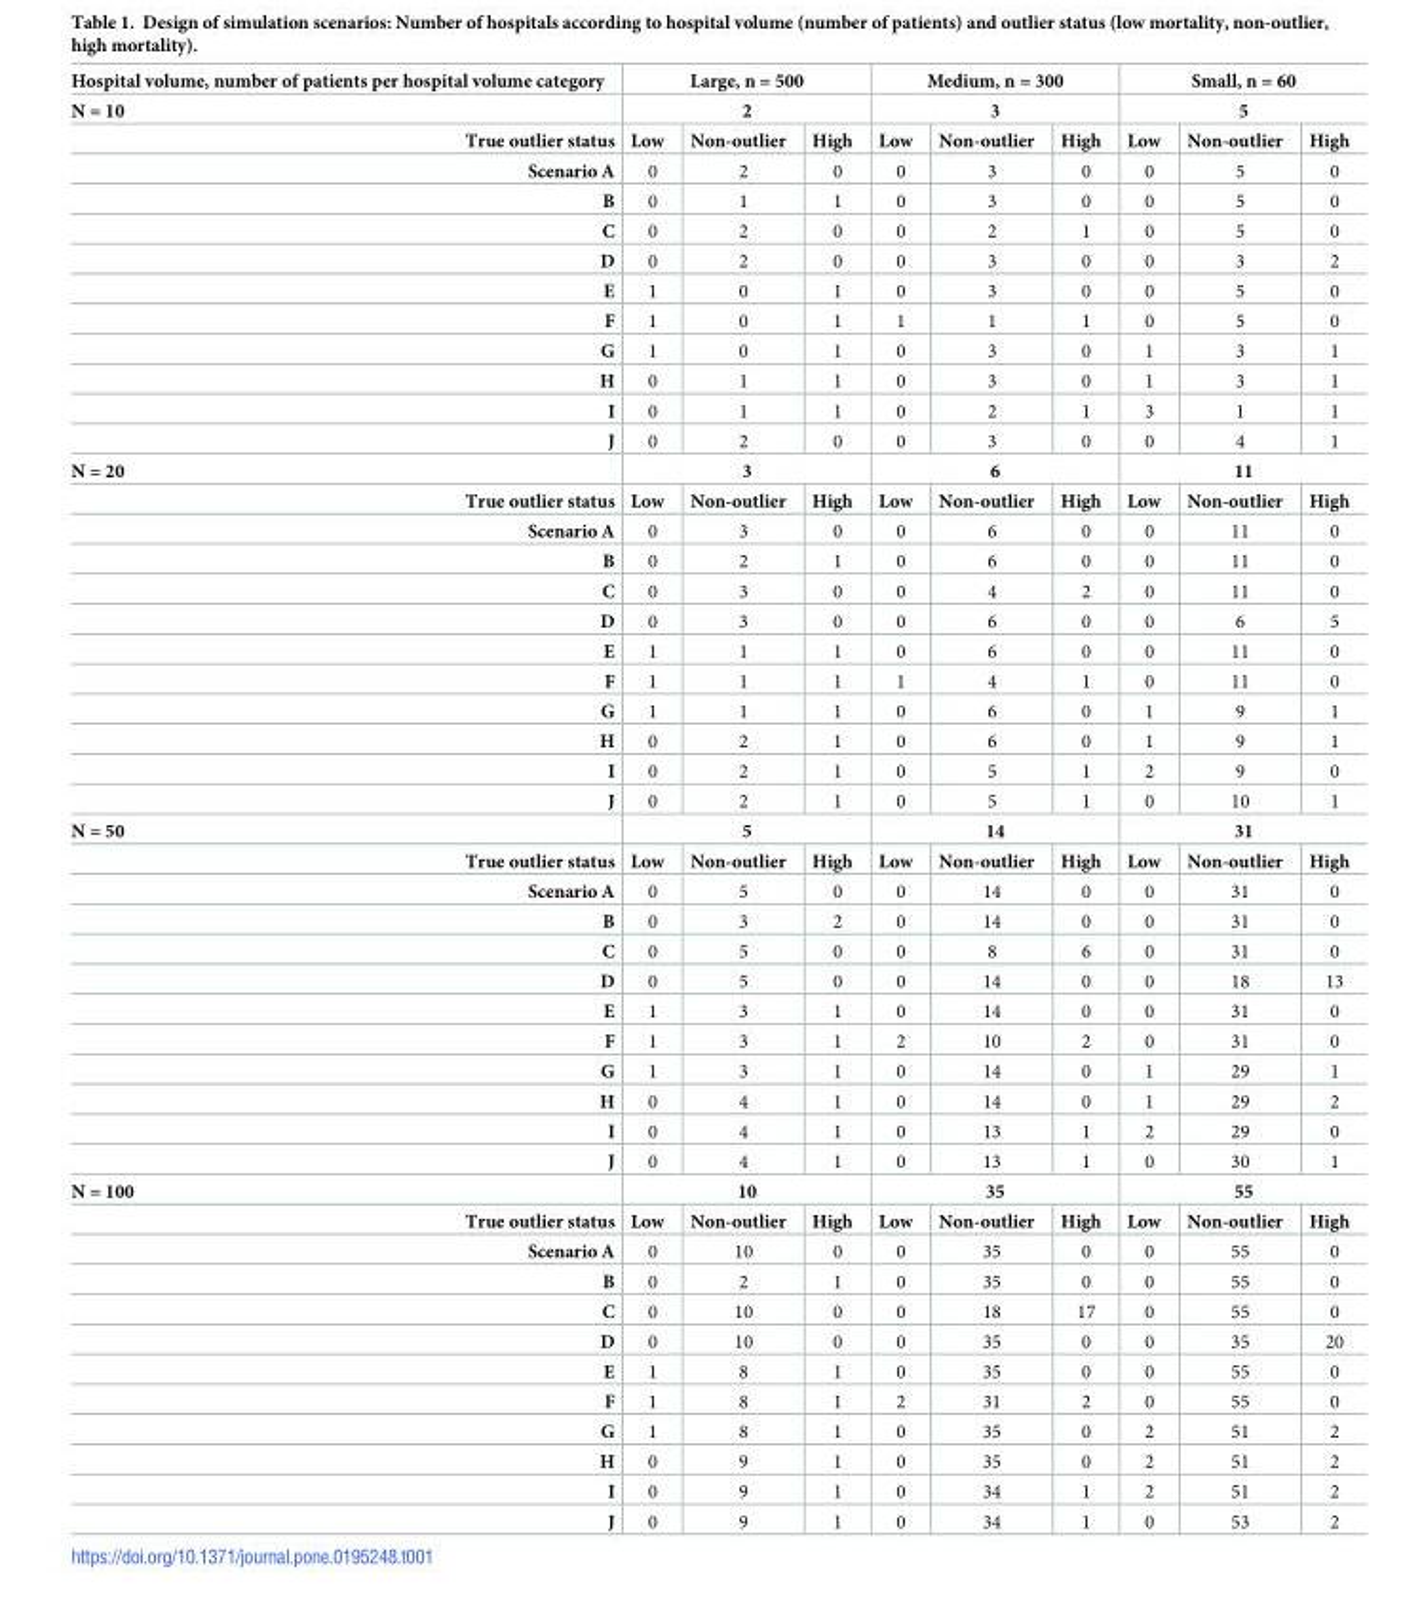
<table><thead><tr><td rowspan="3">Hospital volume, number of patients per hospital volume category N = 10 True outlier status</td><td rowspan="2" colspan="3">Large, n = 500 2</td><td rowspan="2" colspan="3">Medium, n = 300 3</td><td rowspan="2" colspan="3">Small, n = 60 5</td></tr><tr></tr><tr><td>Low</td><td>Non-outlier</td><td>High</td><td>Low</td><td>Non-outlier</td><td>High</td><td>Low</td><td>Non-outlier</td><td>High</td></tr></thead><tbody><tr><td>Scenario A</td><td>0</td><td>2</td><td>0</td><td>0</td><td>3</td><td>0</td><td>0</td><td>5</td><td>0</td></tr><tr><td>B</td><td>0</td><td>1</td><td>1</td><td>0</td><td>3</td><td>0</td><td>0</td><td>5</td><td>0</td></tr><tr><td>C</td><td>0</td><td>2</td><td>0</td><td>0</td><td>2</td><td>1</td><td>0</td><td>5</td><td>0</td></tr><tr><td>D</td><td>0</td><td>2</td><td>0</td><td>0</td><td>3</td><td>0</td><td>0</td><td>3</td><td>2</td></tr><tr><td>E</td><td>1</td><td>0</td><td>1</td><td>0</td><td>3</td><td>0</td><td>0</td><td>5</td><td>0</td></tr><tr><td>F</td><td>1</td><td>0</td><td>1</td><td>1</td><td>1</td><td>1</td><td>0</td><td>5</td><td>0</td></tr><tr><td>G</td><td>1</td><td>0</td><td>1</td><td>0</td><td>3</td><td>0</td><td>1</td><td>3</td><td>1</td></tr><tr><td>H</td><td>0</td><td>1</td><td>1</td><td>0</td><td>3</td><td>0</td><td>1</td><td>3</td><td>1</td></tr><tr><td>I</td><td>0</td><td>1</td><td>1</td><td>0</td><td>2</td><td>1</td><td>3</td><td>1</td><td>1</td></tr><tr><td>J</td><td>0</td><td>2</td><td>0</td><td>0</td><td>3</td><td>0</td><td>0</td><td>4</td><td>1</td></tr><tr><td>N = 20</td><td colspan="3">3</td><td colspan="3">6</td><td colspan="3">11</td></tr><tr><td>True outlier status</td><td>Low</td><td>Non-outlier</td><td>High</td><td>Low</td><td>Non-outlier</td><td>High</td><td>Low</td><td>Non-outlier</td><td>High</td></tr><tr><td>Scenario A</td><td>0</td><td>3</td><td>0</td><td>0</td><td>6</td><td>0</td><td>0</td><td>11</td><td>0</td></tr><tr><td>B</td><td>0</td><td>2</td><td>1</td><td>0</td><td>6</td><td>0</td><td>0</td><td>11</td><td>0</td></tr><tr><td>C</td><td>0</td><td>3</td><td>0</td><td>0</td><td>4</td><td>2</td><td>0</td><td>11</td><td>0</td></tr><tr><td>D</td><td>0</td><td>3</td><td>0</td><td>0</td><td>6</td><td>0</td><td>0</td><td>6</td><td>5</td></tr><tr><td>E</td><td>1</td><td>1</td><td>1</td><td>0</td><td>6</td><td>0</td><td>0</td><td>11</td><td>0</td></tr><tr><td>F</td><td>1</td><td>1</td><td>1</td><td>1</td><td>4</td><td>1</td><td>0</td><td>11</td><td>0</td></tr><tr><td>G</td><td>1</td><td>1</td><td>1</td><td>0</td><td>6</td><td>0</td><td>1</td><td>9</td><td>1</td></tr><tr><td>H</td><td>0</td><td>2</td><td>1</td><td>0</td><td>6</td><td>0</td><td>1</td><td>9</td><td>1</td></tr><tr><td>I</td><td>0</td><td>2</td><td>1</td><td>0</td><td>5</td><td>1</td><td>2</td><td>9</td><td>0</td></tr><tr><td>J</td><td>0</td><td>2</td><td>1</td><td>0</td><td>5</td><td>1</td><td>0</td><td>10</td><td>1</td></tr><tr><td>N = 50</td><td colspan="3">5</td><td colspan="3">14</td><td colspan="3">31</td></tr><tr><td>True outlier status</td><td>Low</td><td>Non-outlier</td><td>High</td><td>Low</td><td>Non-outlier</td><td>High</td><td>Low</td><td>Non-outlier</td><td>High</td></tr><tr><td>Scenario A</td><td>0</td><td>5</td><td>0</td><td>0</td><td>14</td><td>0</td><td>0</td><td>31</td><td>0</td></tr><tr><td>B</td><td>0</td><td>3</td><td>2</td><td>0</td><td>14</td><td>0</td><td>0</td><td>31</td><td>0</td></tr><tr><td>C</td><td>0</td><td>5</td><td>0</td><td>0</td><td>8</td><td>6</td><td>0</td><td>31</td><td>0</td></tr><tr><td>D</td><td>0</td><td>5</td><td>0</td><td>0</td><td>14</td><td>0</td><td>0</td><td>18</td><td>13</td></tr><tr><td>E</td><td>1</td><td>3</td><td>1</td><td>0</td><td>14</td><td>0</td><td>0</td><td>31</td><td>0</td></tr><tr><td>F</td><td>1</td><td>3</td><td>1</td><td>2</td><td>10</td><td>2</td><td>0</td><td>31</td><td>0</td></tr><tr><td>G</td><td>1</td><td>3</td><td>1</td><td>0</td><td>14</td><td>0</td><td>1</td><td>29</td><td>1</td></tr><tr><td>H</td><td>0</td><td>4</td><td>1</td><td>0</td><td>14</td><td>0</td><td>1</td><td>29</td><td>2</td></tr><tr><td>I</td><td>0</td><td>4</td><td>1</td><td>0</td><td>13</td><td>1</td><td>2</td><td>29</td><td>0</td></tr><tr><td>J</td><td>0</td><td>4</td><td>1</td><td>0</td><td>13</td><td>1</td><td>0</td><td>30</td><td>1</td></tr><tr><td>N = 100</td><td colspan="3">10</td><td colspan="3">35</td><td colspan="3">55</td></tr><tr><td>True outlier status</td><td>Low</td><td>Non-outlier</td><td>High</td><td>Low</td><td>Non-outlier</td><td>High</td><td>Low</td><td>Non-outlier</td><td>High</td></tr><tr><td>Scenario A</td><td>0</td><td>10</td><td>0</td><td>0</td><td>35</td><td>0</td><td>0</td><td>55</td><td>0</td></tr><tr><td>B</td><td>0</td><td>2</td><td>1</td><td>0</td><td>35</td><td>0</td><td>0</td><td>55</td><td>0</td></tr><tr><td>C</td><td>0</td><td>10</td><td>0</td><td>0</td><td>18</td><td>17</td><td>0</td><td>55</td><td>0</td></tr><tr><td>D</td><td>0</td><td>10</td><td>0</td><td>0</td><td>35</td><td>0</td><td>0</td><td>35</td><td>20</td></tr><tr><td>E</td><td>1</td><td>8</td><td>1</td><td>0</td><td>35</td><td>0</td><td>0</td><td>55</td><td>0</td></tr><tr><td>F</td><td>1</td><td>8</td><td>1</td><td>2</td><td>31</td><td>2</td><td>0</td><td>55</td><td>0</td></tr><tr><td>G</td><td>1</td><td>8</td><td>1</td><td>0</td><td>35</td><td>0</td><td>2</td><td>51</td><td>2</td></tr><tr><td>H</td><td>0</td><td>9</td><td>1</td><td>0</td><td>35</td><td>0</td><td>2</td><td>51</td><td>2</td></tr><tr><td>I</td><td>0</td><td>9</td><td>1</td><td>0</td><td>34</td><td>1</td><td>2</td><td>51</td><td>2</td></tr><tr><td>J</td><td>0</td><td>9</td><td>1</td><td>0</td><td>34</td><td>1</td><td>0</td><td>53</td><td>2</td></tr></tbody></table>